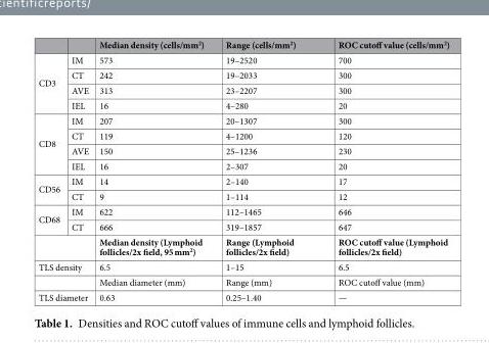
<table><thead><tr><td></td><td></td><td>Median density (cells/mm<sup>2</sup>)</td><td>Range (cells/mm<sup>2</sup>)</td><td>ROC cutoff value (cells/mm<sup>2</sup>)</td></tr></thead><tbody><tr><td rowspan="4">CD3</td><td>IM</td><td>573</td><td>19–2520</td><td>700</td></tr><tr><td>CT</td><td>242</td><td>19–2033</td><td>300</td></tr><tr><td>AVE</td><td>313</td><td>23–2207</td><td>300</td></tr><tr><td>IEL</td><td>16</td><td>4–280</td><td>20</td></tr><tr><td rowspan="4">CD8</td><td>IM</td><td>207</td><td>20–1307</td><td>300</td></tr><tr><td>CT</td><td>119</td><td>4–1200</td><td>120</td></tr><tr><td>AVE</td><td>150</td><td>25–1236</td><td>230</td></tr><tr><td>IEL</td><td>16</td><td>2–307</td><td>20</td></tr><tr><td rowspan="2">CD56</td><td>IM</td><td>14</td><td>2–140</td><td>17</td></tr><tr><td>CT</td><td>9</td><td>1–114</td><td>12</td></tr><tr><td rowspan="2">CD68</td><td>IM</td><td>622</td><td>112–1465</td><td>646</td></tr><tr><td>CT</td><td>666</td><td>319–1857</td><td>647</td></tr><tr><td colspan="2"></td><td>Median density (Lymphoid follicles/2x field, 95 mm<sup>2</sup>)</td><td>Range (Lymphoid follicles/2x field)</td><td>ROC cutoff value (Lymphoid follicles/2x field)</td></tr><tr><td rowspan="2" colspan="2">TLS density</td><td>6.5</td><td>1–15</td><td>6.5</td></tr><tr><td>Median diameter (mm)</td><td>Range (mm)</td><td>ROC cutoff value (mm)</td></tr><tr><td colspan="2">TLS diameter</td><td>0.63</td><td>0.25–1.40</td><td>—</td></tr></tbody></table>